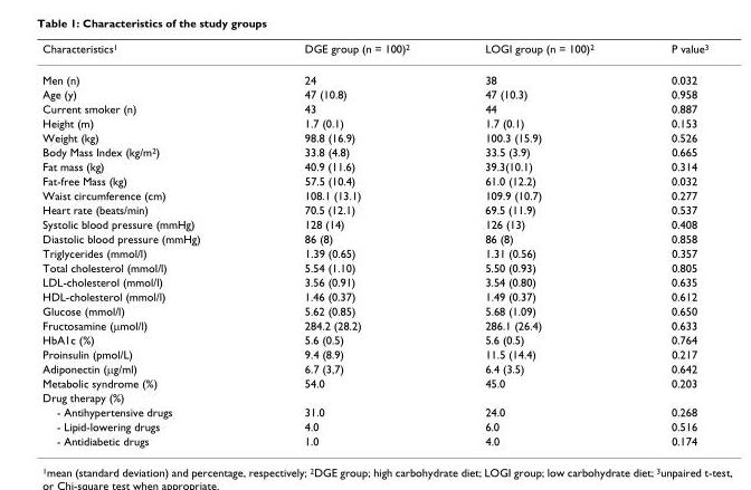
<table><thead><tr><td>Characteristics<sup>1</sup></td><td>DGE group (n = 100)<sup>2</sup></td><td>LOGI group (n = 100)<sup>2</sup></td><td>P value<sup>3</sup></td></tr></thead><tbody><tr><td>Men (n)</td><td>24</td><td>38</td><td>0.032</td></tr><tr><td>Age (y)</td><td>47 (10.8)</td><td>47 (10.3)</td><td>0.958</td></tr><tr><td>Current smoker (n)</td><td>43</td><td>44</td><td>0.887</td></tr><tr><td>Height (m)</td><td>1.7 (0.1)</td><td>1.7 (0.1)</td><td>0.153</td></tr><tr><td>Weight (kg)</td><td>98.8 (16.9)</td><td>100.3 (15.9)</td><td>0.526</td></tr><tr><td>Body Mass Index (kg/m<sup>2</sup>)</td><td>33.8 (4.8)</td><td>33.5 (3.9)</td><td>0.665</td></tr><tr><td>Fat mass (kg)</td><td>40.9 (11.6)</td><td>39.3(10.1)</td><td>0.314</td></tr><tr><td>Fat-free Mass (kg)</td><td>57.5 (10.4)</td><td>61.0 (12.2)</td><td>0.032</td></tr><tr><td>Waist circumference (cm)</td><td>108.1 (13.1)</td><td>109.9 (10.7)</td><td>0.277</td></tr><tr><td>Heart rate (beats/min)</td><td>70.5 (12.1)</td><td>69.5 (11.9)</td><td>0.537</td></tr><tr><td>Systolic blood pressure (mmHg)</td><td>128 (14)</td><td>126 (13)</td><td>0.408</td></tr><tr><td>Diastolic blood pressure (mmHg)</td><td>86 (8)</td><td>86 (8)</td><td>0.858</td></tr><tr><td>Triglycerides (mmol/l)</td><td>1.39 (0.65)</td><td>1.31 (0.56)</td><td>0.357</td></tr><tr><td>Total cholesterol (mmol/l)</td><td>5.54 (1.10)</td><td>5.50 (0.93)</td><td>0.805</td></tr><tr><td>LDL-cholesterol (mmol/l)</td><td>3.56 (0.91)</td><td>3.54 (0.80)</td><td>0.635</td></tr><tr><td>HDL-cholesterol (mmol/l)</td><td>1.46 (0.37)</td><td>1.49 (0.37)</td><td>0.612</td></tr><tr><td>Glucose (mmol/l)</td><td>5.62 (0.85)</td><td>5.68 (1.09)</td><td>0.650</td></tr><tr><td>Fructosamine (μmol/l)</td><td>284.2 (28.2)</td><td>286.1 (26.4)</td><td>0.633</td></tr><tr><td>HbA1c (%)</td><td>5.6 (0.5)</td><td>5.6 (0.5)</td><td>0.764</td></tr><tr><td>Proinsulin (pmol/L)</td><td>9.4 (8.9)</td><td>11.5 (14.4)</td><td>0.217</td></tr><tr><td>Adiponectin (μg/ml)</td><td>6.7 (3,7)</td><td>6.4 (3.5)</td><td>0.642</td></tr><tr><td>Metabolic syndrome (%)</td><td>54.0</td><td>45.0</td><td>0.203</td></tr><tr><td colspan="4">Drug therapy (%)</td></tr><tr><td>- Antihypertensive drugs</td><td>31.0</td><td>24.0</td><td>0.268</td></tr><tr><td>- Lipid-lowering drugs</td><td>4.0</td><td>6.0</td><td>0.516</td></tr><tr><td>- Antidiabetic drugs</td><td>1.0</td><td>4.0</td><td>0.174</td></tr></tbody></table>